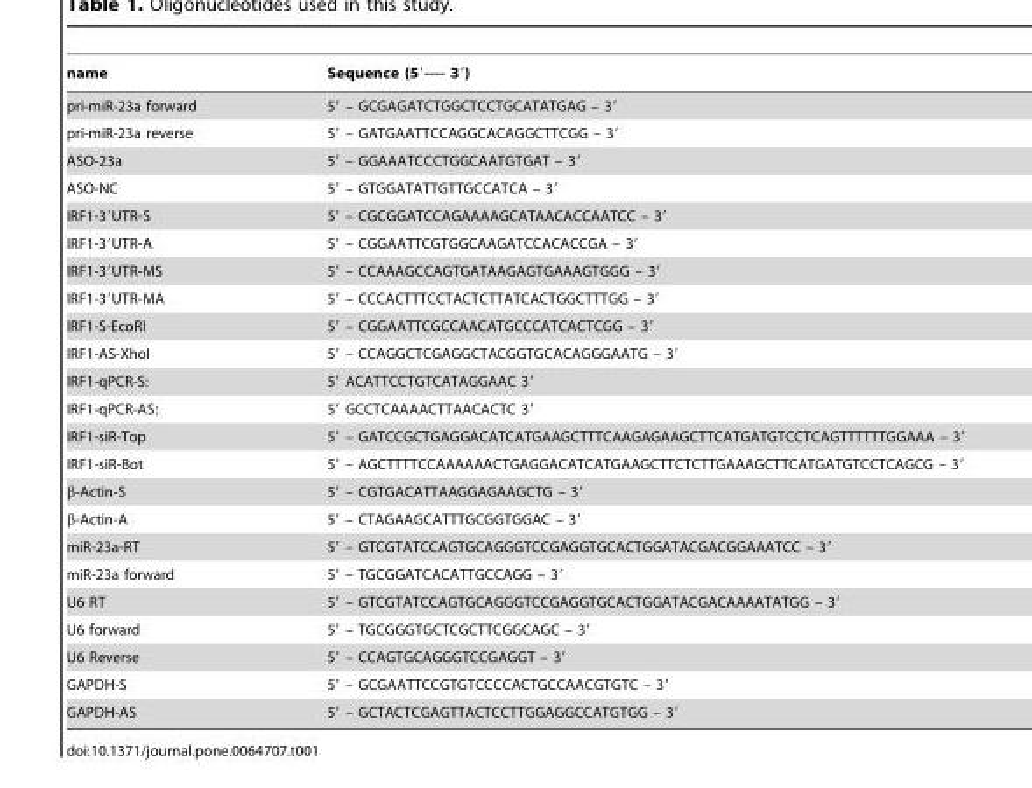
<table><thead><tr><td>name</td><td>Sequence (5′---- 3′)</td></tr></thead><tbody><tr><td>pri-miR-23a forward</td><td>5′ – GCGAGATCTGGCTCCTGCATATGAG – 3′</td></tr><tr><td>pri-miR-23a reverse</td><td>5′ – GATGAATTCCAGGCACAGGCTTCGG – 3′</td></tr><tr><td>ASO-23a</td><td>5′ – GGAAATCCCTGGCAATGTGAT – 3′</td></tr><tr><td>ASO-NC</td><td>5′ – GTGGATATTGTTGCCATCA – 3′</td></tr><tr><td>IRF1-3′UTR-S</td><td>5′ – CGCGGATCCAGAAAAGCATAACACCAATCC – 3′</td></tr><tr><td>IRF1-3′UTR-A</td><td>5′ – CGGAATTCGTGGCAAGATCCACACCGA – 3′</td></tr><tr><td>IRF1-3′UTR-MS</td><td>5′ – CCAAAGCCAGTGATAAGAGTGAAAGTGGG – 3′</td></tr><tr><td>IRF1-3′UTR-MA</td><td>5′ – CCCACTTTCCTACTCTTATCACTGGCTTTGG – 3′</td></tr><tr><td>IRF1-S-EcoRI</td><td>5′ – CGGAATTCGCCAACATGCCCATCACTCGG – 3′</td></tr><tr><td>IRF1-AS-XhoI</td><td>5′ – CCAGGCTCGAGGCTACGGTGCACAGGGAATG – 3′</td></tr><tr><td>IRF1-qPCR-S:</td><td>5′ ACATTCCTGTCATAGGAAC 3′</td></tr><tr><td>IRF1-qPCR-AS:</td><td>5′ GCCTCAAAACTTAACACTC 3′</td></tr><tr><td>IRF1-siR-Top</td><td>5′ – GATCCGCTGAGGACATCATGAAGCTTTCAAGAGAAGCTTCATGATGTCCTCAGTTTTTTGGAAA – 3′</td></tr><tr><td>IRF1-siR-Bot</td><td>5′ – AGCTTTTCCAAAAAACTGAGGACATCATGAAGCTTCTCTTGAAAGCTTCATGATGTCCTCAGCG – 3′</td></tr><tr><td>β-Actin-S</td><td>5′ – CGTGACATTAAGGAGAAGCTG – 3′</td></tr><tr><td>β-Actin-A</td><td>5′ – CTAGAAGCATTTGCGGTGGAC – 3′</td></tr><tr><td>miR-23a-RT</td><td>5′ – GTCGTATCCAGTGCAGGGTCCGAGGTGCACTGGATACGACGGAAATCC – 3′</td></tr><tr><td>miR-23a forward</td><td>5′ – TGCGGATCACATTGCCAGG – 3′</td></tr><tr><td>U6 RT</td><td>5′ – GTCGTATCCAGTGCAGGGTCCGAGGTGCACTGGATACGACAAAATATGG – 3′</td></tr><tr><td>U6 forward</td><td>5′ – TGCGGGTGCTCGCTTCGGCAGC – 3′</td></tr><tr><td>U6 Reverse</td><td>5′ – CCAGTGCAGGGTCCGAGGT – 3′</td></tr><tr><td>GAPDH-S</td><td>5′ – GCGAATTCCGTGTCCCCACTGCCAACGTGTC – 3′</td></tr><tr><td>GAPDH-AS</td><td>5′ – GCTACTCGAGTTACTCCTTGGAGGCCATGTGG – 3′</td></tr></tbody></table>